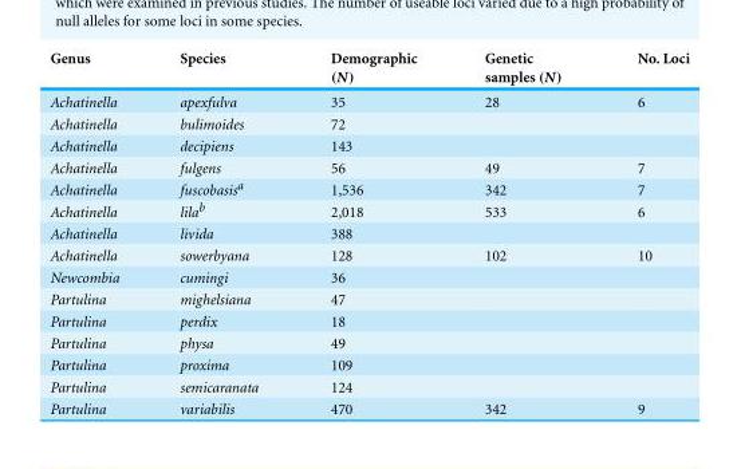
<table><thead><tr><td>Genus</td><td>Species</td><td>Demographic (N)</td><td>Genetic samples (N)</td><td>No. Loci</td></tr></thead><tbody><tr><td>Achatinella</td><td>apexfulva</td><td>35</td><td>28</td><td>6</td></tr><tr><td>Achatinella</td><td>bulimoides</td><td>72</td><td></td><td></td></tr><tr><td>Achatinella</td><td>decipiens</td><td>143</td><td></td><td></td></tr><tr><td>Achatinella</td><td>fulgens</td><td>56</td><td>49</td><td>7</td></tr><tr><td>Achatinella</td><td>fuscobasis<sup>a</sup></td><td>1,536</td><td>342</td><td>7</td></tr><tr><td>Achatinella</td><td>lila<sup>b</sup></td><td>2,018</td><td>533</td><td>6</td></tr><tr><td>Achatinella</td><td>livida</td><td>388</td><td></td><td></td></tr><tr><td>Achatinella</td><td>sowerbyana</td><td>128</td><td>102</td><td>10</td></tr><tr><td>Newcombia</td><td>cumingi</td><td>36</td><td></td><td></td></tr><tr><td>Partulina</td><td>mighelsiana</td><td>47</td><td></td><td></td></tr><tr><td>Partulina</td><td>perdix</td><td>18</td><td></td><td></td></tr><tr><td>Partulina</td><td>physa</td><td>49</td><td></td><td></td></tr><tr><td>Partulina</td><td>proxima</td><td>109</td><td></td><td></td></tr><tr><td>Partulina</td><td>semicaranata</td><td>124</td><td></td><td></td></tr><tr><td>Partulina</td><td>variabilis</td><td>470</td><td>342</td><td>9</td></tr></tbody></table>